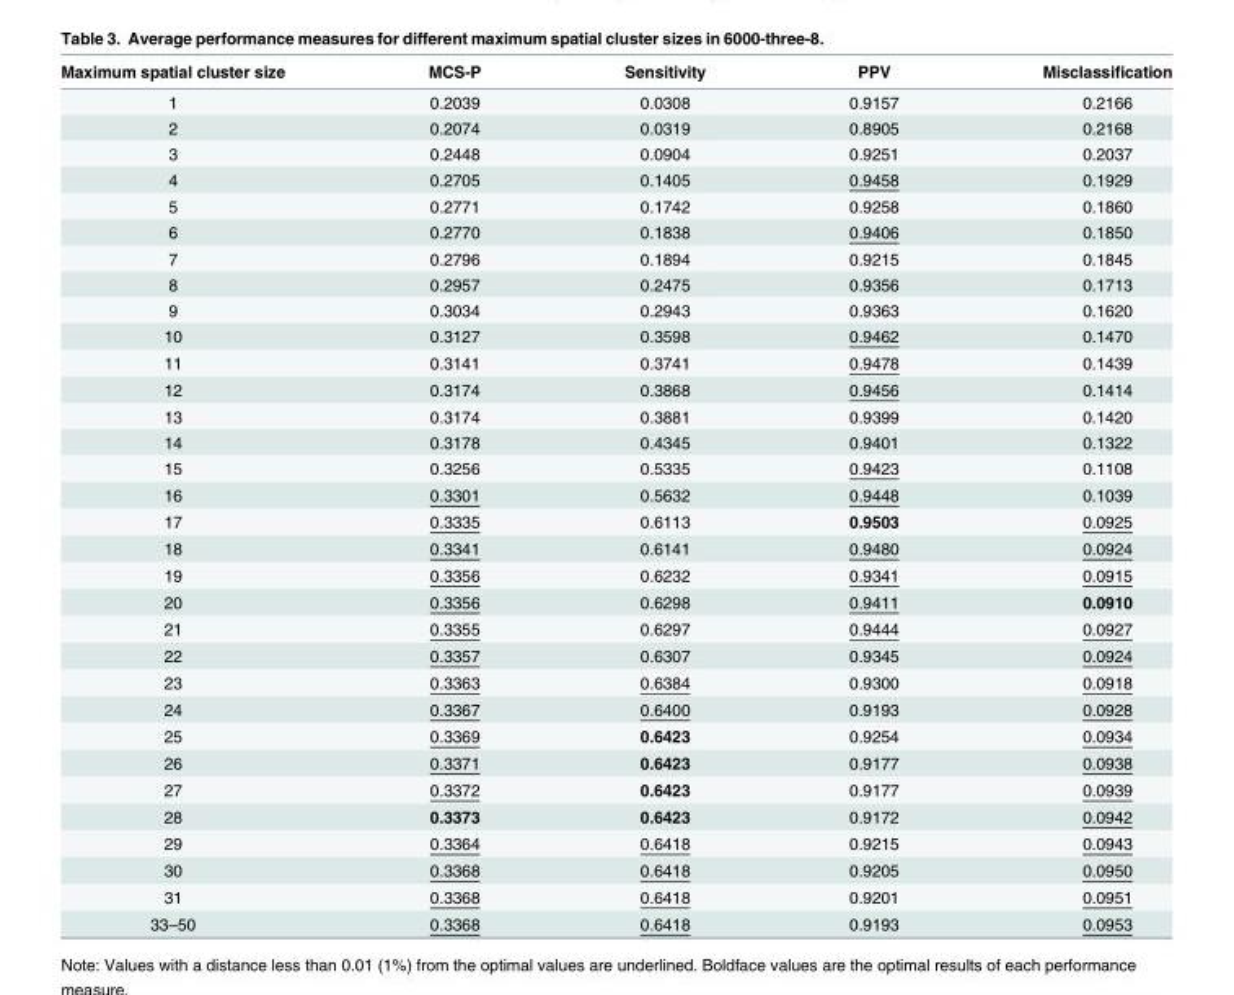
<table><thead><tr><td>Maximum spatial cluster size</td><td>MCS-P</td><td>Sensitivity</td><td>PPV</td><td>Misclassification</td></tr></thead><tbody><tr><td>1</td><td>0.2039</td><td>0.0308</td><td>0.9157</td><td>0.2166</td></tr><tr><td>2</td><td>0.2074</td><td>0.0319</td><td>0.8905</td><td>0.2168</td></tr><tr><td>3</td><td>0.2448</td><td>0.0904</td><td>0.9251</td><td>0.2037</td></tr><tr><td>4</td><td>0.2705</td><td>0.1405</td><td>0.9458</td><td>0.1929</td></tr><tr><td>5</td><td>0.2771</td><td>0.1742</td><td>0.9258</td><td>0.1860</td></tr><tr><td>6</td><td>0.2770</td><td>0.1838</td><td>0.9406</td><td>0.1850</td></tr><tr><td>7</td><td>0.2796</td><td>0.1894</td><td>0.9215</td><td>0.1845</td></tr><tr><td>8</td><td>0.2957</td><td>0.2475</td><td>0.9356</td><td>0.1713</td></tr><tr><td>9</td><td>0.3034</td><td>0.2943</td><td>0.9363</td><td>0.1620</td></tr><tr><td>10</td><td>0.3127</td><td>0.3598</td><td>0.9462</td><td>0.1470</td></tr><tr><td>11</td><td>0.3141</td><td>0.3741</td><td>0.9478</td><td>0.1439</td></tr><tr><td>12</td><td>0.3174</td><td>0.3868</td><td>0.9456</td><td>0.1414</td></tr><tr><td>13</td><td>0.3174</td><td>0.3881</td><td>0.9399</td><td>0.1420</td></tr><tr><td>14</td><td>0.3178</td><td>0.4345</td><td>0.9401</td><td>0.1322</td></tr><tr><td>15</td><td>0.3256</td><td>0.5335</td><td>0.9423</td><td>0.1108</td></tr><tr><td>16</td><td>0.3301</td><td>0.5632</td><td>0.9448</td><td>0.1039</td></tr><tr><td>17</td><td>0.3335</td><td>0.6113</td><td>0.9503</td><td>0.0925</td></tr><tr><td>18</td><td>0.3341</td><td>0.6141</td><td>0.9480</td><td>0.0924</td></tr><tr><td>19</td><td>0.3356</td><td>0.6232</td><td>0.9341</td><td>0.0915</td></tr><tr><td>20</td><td>0.3356</td><td>0.6298</td><td>0.9411</td><td>0.0910</td></tr><tr><td>21</td><td>0.3355</td><td>0.6297</td><td>0.9444</td><td>0.0927</td></tr><tr><td>22</td><td>0.3357</td><td>0.6307</td><td>0.9345</td><td>0.0924</td></tr><tr><td>23</td><td>0.3363</td><td>0.6384</td><td>0.9300</td><td>0.0918</td></tr><tr><td>24</td><td>0.3367</td><td>0.6400</td><td>0.9193</td><td>0.0928</td></tr><tr><td>25</td><td>0.3369</td><td>0.6423</td><td>0.9254</td><td>0.0934</td></tr><tr><td>26</td><td>0.3371</td><td>0.6423</td><td>0.9177</td><td>0.0938</td></tr><tr><td>27</td><td>0.3372</td><td>0.6423</td><td>0.9177</td><td>0.0939</td></tr><tr><td>28</td><td>0.3373</td><td>0.6423</td><td>0.9172</td><td>0.0942</td></tr><tr><td>29</td><td>0.3364</td><td>0.6418</td><td>0.9215</td><td>0.0943</td></tr><tr><td>30</td><td>0.3368</td><td>0.6418</td><td>0.9205</td><td>0.0950</td></tr><tr><td>31</td><td>0.3368</td><td>0.6418</td><td>0.9201</td><td>0.0951</td></tr><tr><td>33–50</td><td>0.3368</td><td>0.6418</td><td>0.9193</td><td>0.0953</td></tr></tbody></table>